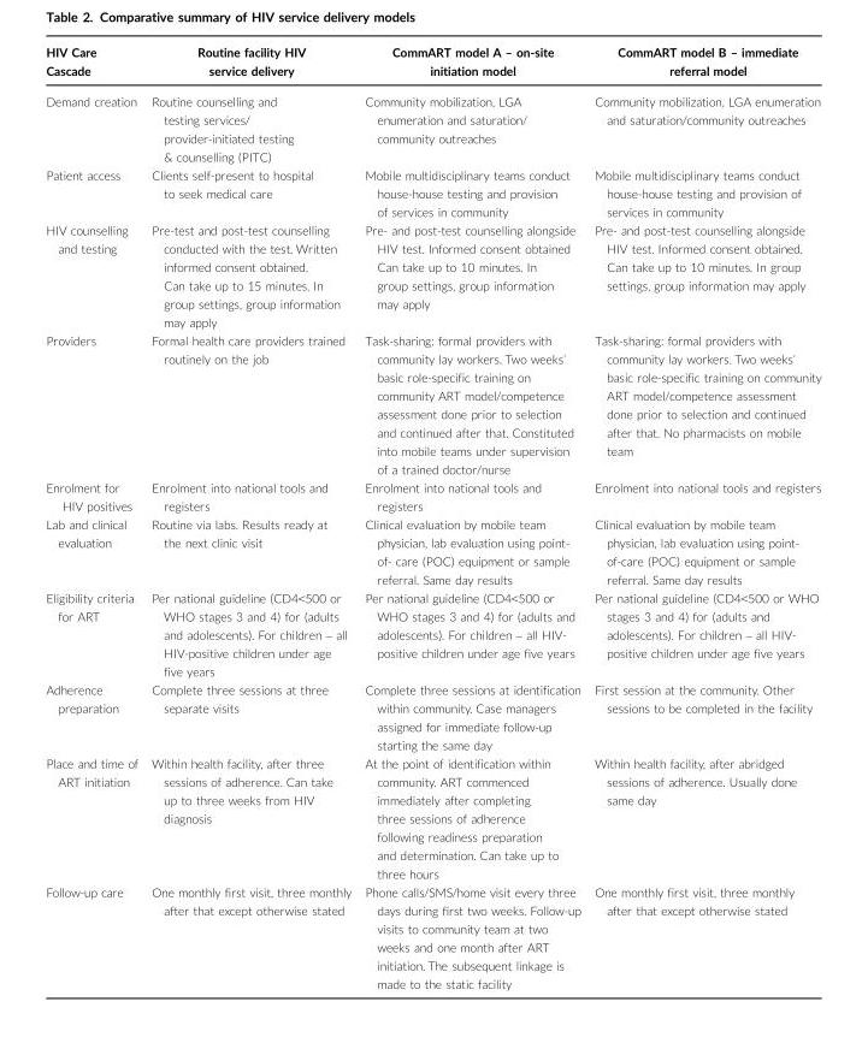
<table><thead><tr><td>HIV Care Cascade</td><td>Routine facility HIV service delivery</td><td>CommART model A – on-site initiation model</td><td>CommART model B – immediate referral model</td></tr></thead><tbody><tr><td>Demand creation</td><td>Routine counselling and testing services/ provider-initiated testing &amp; counselling (PITC)</td><td>Community mobilization, LGA enumeration and saturation/ community outreaches</td><td>Community mobilization, LGA enumeration and saturation/community outreaches</td></tr><tr><td>Patient access</td><td>Clients self-present to hospital to seek medical care</td><td>Mobile multidisciplinary teams conduct house-house testing and provision of services in community</td><td>Mobile multidisciplinary teams conduct house-house testing and provision of services in community</td></tr><tr><td>HIV counselling and testing</td><td>Pre-test and post-test counselling conducted with the test. Written informed consent obtained. Can take up to 15 minutes. In group settings, group information may apply</td><td>Pre- and post-test counselling alongside HIV test. Informed consent obtained Can take up to 10 minutes. In group settings, group information may apply</td><td>Pre- and post-test counselling alongside HIV test. Informed consent obtained. Can take up to 10 minutes. In group settings, group information may apply</td></tr><tr><td>Providers</td><td>Formal health care providers trained routinely on the job</td><td>Task-sharing: formal providers with community lay workers. Two weeks’ basic role-specific training on community ART model/competence assessment done prior to selection and continued after that. Constituted into mobile teams under supervision of a trained doctor/nurse</td><td>Task-sharing: formal providers with community lay workers. Two weeks’ basic role-specific training on community ART model/competence assessment done prior to selection and continued after that. No pharmacists on mobile team</td></tr><tr><td>Enrolment for HIV positives</td><td>Enrolment into national tools and registers</td><td>Enrolment into national tools and registers</td><td>Enrolment into national tools and registers</td></tr><tr><td>Lab and clinical evaluation</td><td>Routine via labs. Results ready at the next clinic visit</td><td>Clinical evaluation by mobile team physician, lab evaluation using point- of- care (POC) equipment or sample referral. Same day results</td><td>Clinical evaluation by mobile team physician, lab evaluation using point- of-care (POC) equipment or sample referral. Same day results</td></tr><tr><td>Eligibility criteria for ART</td><td>Per national guideline (CD4&lt;500 or WHO stages 3 and 4) for (adults and adolescents). For children – all HIV-positive children under age five years</td><td>Per national guideline (CD4&lt;500 or WHO stages 3 and 4) for (adults and adolescents). For children – all HIV- positive children under age five years</td><td>Per national guideline (CD4&lt;500 or WHO stages 3 and 4) for (adults and adolescents). For children – all HIV- positive children under age five years</td></tr><tr><td>Adherence preparation</td><td>Complete three sessions at three separate visits</td><td>Complete three sessions at identification within community. Case managers assigned for immediate follow-up starting the same day</td><td>First session at the community. Other sessions to be completed in the facility</td></tr><tr><td>Place and time of ART initiation</td><td>Within health facility, after three sessions of adherence. Can take up to three weeks from HIV diagnosis</td><td>At the point of identification within community. ART commenced immediately after completing three sessions of adherence following readiness preparation and determination. Can take up to three hours</td><td>Within health facility, after abridged sessions of adherence. Usually done same day</td></tr><tr><td>Follow-up care</td><td>One monthly first visit, three monthly after that except otherwise stated</td><td>Phone calls/SMS/home visit every three days during first two weeks. Follow-up visits to community team at two weeks and one month after ART initiation. The subsequent linkage is made to the static facility</td><td>One monthly first visit, three monthly after that except otherwise stated</td></tr></tbody></table>